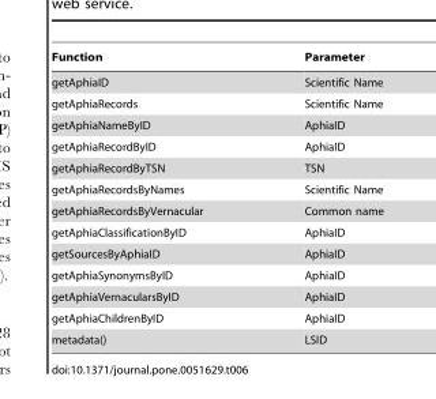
<table><thead><tr><td>Function</td><td>Parameter</td></tr></thead><tbody><tr><td>getAphiaID</td><td>Scientific Name</td></tr><tr><td>getAphiaRecords</td><td>Scientific Name</td></tr><tr><td>getAphiaNameByID</td><td>AphiaID</td></tr><tr><td>getAphiaRecordByID</td><td>AphiaID</td></tr><tr><td>getAphiaRecordByTSN</td><td>TSN</td></tr><tr><td>getAphiaRecordsByNames</td><td>Scientific Name</td></tr><tr><td>getAphiaRecordsByVernacular</td><td>Common name</td></tr><tr><td>getAphiaClassificationByID</td><td>AphiaID</td></tr><tr><td>getSourcesByAphiaID</td><td>AphiaID</td></tr><tr><td>getAphiaSynonymsByID</td><td>AphiaID</td></tr><tr><td>getAphiaVernacularsByID</td><td>AphiaID</td></tr><tr><td>getAphiaChildrenByID</td><td>AphiaID</td></tr><tr><td>metadata()</td><td>LSID</td></tr></tbody></table>